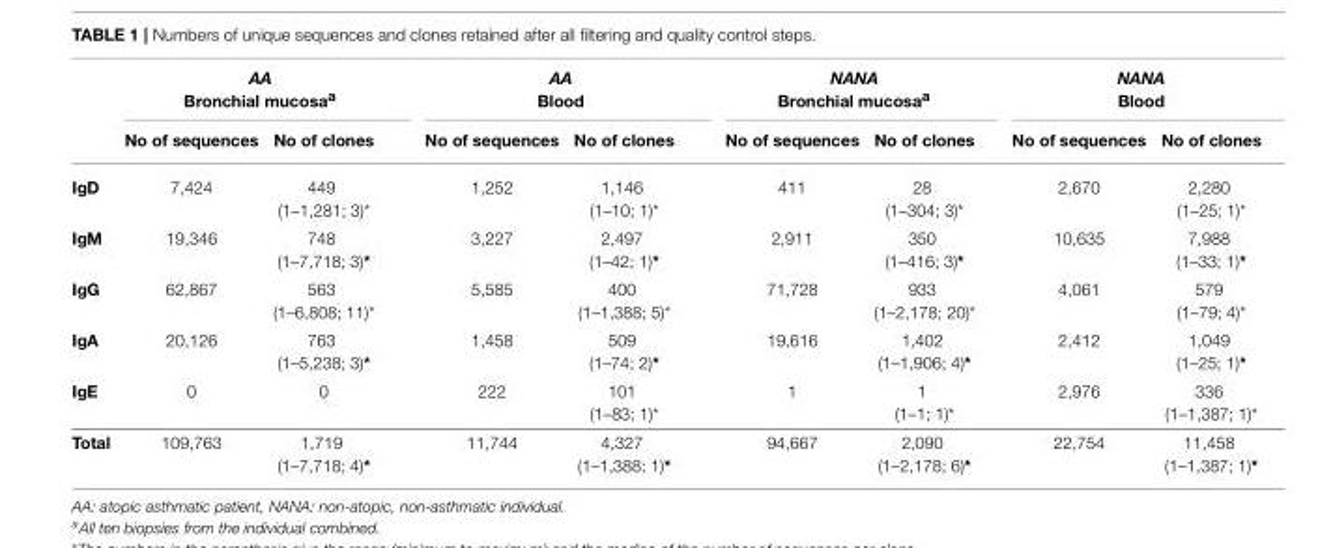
<table><thead><tr><td rowspan="2"></td><td colspan="2">AA Bronchial mucosa<sup>a</sup></td><td colspan="2">AA Blood</td><td colspan="2">NANA Bronchial mucosa<sup>a</sup></td><td colspan="2">NANA Blood</td></tr><tr><td>No of sequences</td><td>No of clones</td><td>No of sequences</td><td>No of clones</td><td>No of sequences</td><td>No of clones</td><td>No of sequences</td><td>No of clones</td></tr></thead><tbody><tr><td>IgD</td><td>7,424</td><td>449 (1–1,281; 3)*</td><td>1,252</td><td>1,146 (1–10; 1)*</td><td>411</td><td>28 (1–304; 3)*</td><td>2,670</td><td>2,280 (1–25; 1)*</td></tr><tr><td>IgM</td><td>19,346</td><td>748 (1–7,718; 3)*</td><td>3,227</td><td>2,497 (1–42; 1)*</td><td>2,911</td><td>350 (1–416; 3)*</td><td>10,635</td><td>7,988 (1–33; 1)*</td></tr><tr><td>IgG</td><td>62,867</td><td>563 (1–6,808; 11)*</td><td>5,585</td><td>400 (1–1,388; 5)*</td><td>71,728</td><td>933 (1–2,178; 20)*</td><td>4,061</td><td>579 (1–79; 4)*</td></tr><tr><td>IgA</td><td>20,126</td><td>763 (1–5,238; 3)*</td><td>1,458</td><td>509 (1–74; 2)*</td><td>19,616</td><td>1,402 (1–1,906; 4)*</td><td>2,412</td><td>1,049 (1–25; 1)*</td></tr><tr><td>IgE</td><td>0</td><td>0</td><td>222</td><td>101 (1–83; 1)*</td><td>1</td><td>1 (1–1; 1)*</td><td>2,976</td><td>336 (1–1,387; 1)*</td></tr><tr><td>Total</td><td>109,763</td><td>1,719 (1–7,718; 4)*</td><td>11,744</td><td>4,327 (1–1,388; 1)*</td><td>94,667</td><td>2,090 (1–2,178; 6)*</td><td>22,754</td><td>11,458 (1–1,387; 1)*</td></tr></tbody></table>